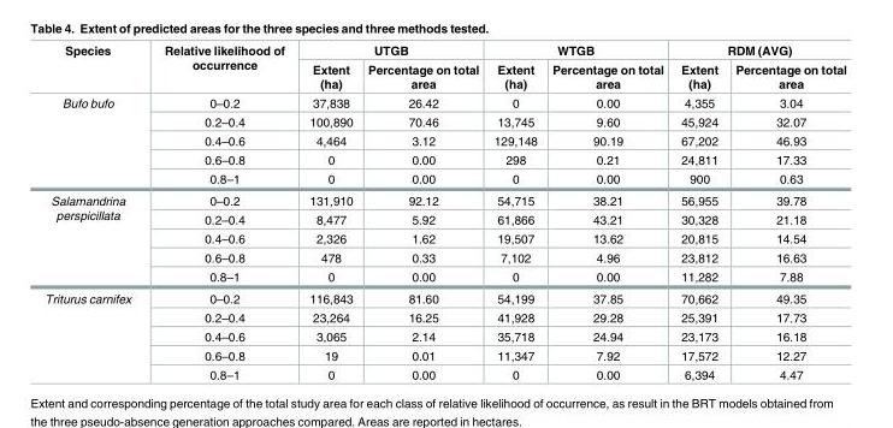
<table><thead><tr><td rowspan="2">Species</td><td rowspan="2">Relative likelihood of occurrence</td><td colspan="2">UTGB</td><td colspan="2">WTGB</td><td colspan="2">RDM (AVG)</td></tr><tr><td>Extent (ha)</td><td>Percentage on total area</td><td>Extent (ha)</td><td>Percentage on total area</td><td>Extent (ha)</td><td>Percentage on total area</td></tr></thead><tbody><tr><td rowspan="5">Bufo bufo</td><td>0–0.2</td><td>37,838</td><td>26.42</td><td>0</td><td>0.00</td><td>4,355</td><td>3.04</td></tr><tr><td>0.2–0.4</td><td>100,890</td><td>70.46</td><td>13,745</td><td>9.60</td><td>45,924</td><td>32.07</td></tr><tr><td>0.4–0.6</td><td>4,464</td><td>3.12</td><td>129,148</td><td>90.19</td><td>67,202</td><td>46.93</td></tr><tr><td>0.6–0.8</td><td>0</td><td>0.00</td><td>298</td><td>0.21</td><td>24,811</td><td>17.33</td></tr><tr><td>0.8–1</td><td>0</td><td>0.00</td><td>0</td><td>0.00</td><td>900</td><td>0.63</td></tr><tr><td rowspan="5">Salamandrina perspicillata</td><td>0–0.2</td><td>131,910</td><td>92.12</td><td>54,715</td><td>38.21</td><td>56,955</td><td>39.78</td></tr><tr><td>0.2–0.4</td><td>8,477</td><td>5.92</td><td>61,866</td><td>43.21</td><td>30,328</td><td>21.18</td></tr><tr><td>0.4–0.6</td><td>2,326</td><td>1.62</td><td>19,507</td><td>13.62</td><td>20,815</td><td>14.54</td></tr><tr><td>0.6–0.8</td><td>478</td><td>0.33</td><td>7,102</td><td>4.96</td><td>23,812</td><td>16.63</td></tr><tr><td>0.8–1</td><td>0</td><td>0.00</td><td>0</td><td>0.00</td><td>11,282</td><td>7.88</td></tr><tr><td rowspan="5">Triturus carnifex</td><td>0–0.2</td><td>116,843</td><td>81.60</td><td>54,199</td><td>37.85</td><td>70,662</td><td>49.35</td></tr><tr><td>0.2–0.4</td><td>23,264</td><td>16.25</td><td>41,928</td><td>29.28</td><td>25,391</td><td>17.73</td></tr><tr><td>0.4–0.6</td><td>3,065</td><td>2.14</td><td>35,718</td><td>24.94</td><td>23,173</td><td>16.18</td></tr><tr><td>0.6–0.8</td><td>19</td><td>0.01</td><td>11,347</td><td>7.92</td><td>17,572</td><td>12.27</td></tr><tr><td>0.8–1</td><td>0</td><td>0.00</td><td>0</td><td>0.00</td><td>6,394</td><td>4.47</td></tr></tbody></table>